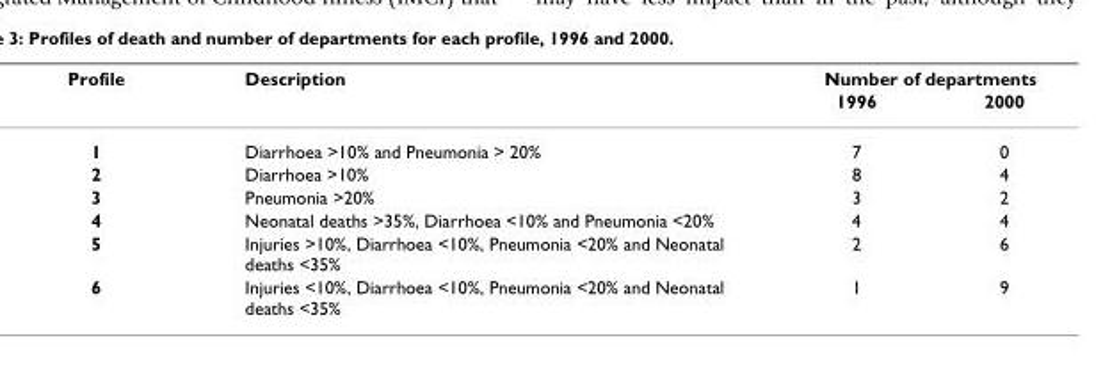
<table><thead><tr><td rowspan="2">Profile</td><td rowspan="2">Description</td><td colspan="2">Number of departments</td></tr><tr><td>1996</td><td>2000</td></tr></thead><tbody><tr><td>1</td><td>Diarrhoea &gt;10% and Pneumonia &gt; 20%</td><td>7</td><td>0</td></tr><tr><td>2</td><td>Diarrhoea &gt;10%</td><td>8</td><td>4</td></tr><tr><td>3</td><td>Pneumonia &gt;20%</td><td>3</td><td>2</td></tr><tr><td>4</td><td>Neonatal deaths &gt;35%, Diarrhoea &lt;10% and Pneumonia &lt;20%</td><td>4</td><td>4</td></tr><tr><td>5</td><td>Injuries &gt;10%, Diarrhoea &lt;10%, Pneumonia &lt;20% and Neonatal deaths &lt;35%</td><td>2</td><td>6</td></tr><tr><td>6</td><td>Injuries &lt;10%, Diarrhoea &lt;10%, Pneumonia &lt;20% and Neonatal deaths &lt;35%</td><td>1</td><td>9</td></tr></tbody></table>